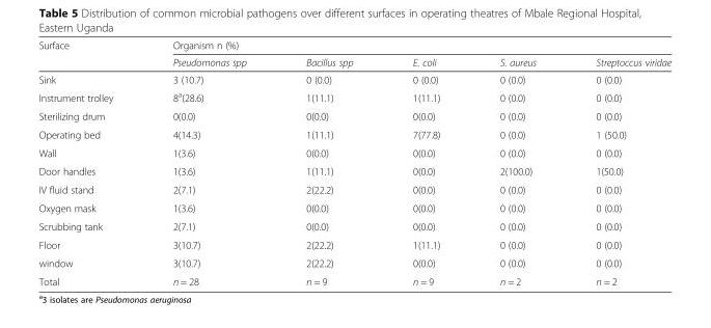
<table><thead><tr><td rowspan="2">Surface</td><td colspan="5">Organism n (%)</td></tr><tr><td>Pseudomonas spp</td><td>Bacillus spp</td><td>E. coli</td><td>S. aureus</td><td>Streptoccus viridae</td></tr></thead><tbody><tr><td>Sink</td><td>3 (10.7)</td><td>0 (0.0)</td><td>0 (0.0)</td><td>0 (0.0)</td><td>0 (0.0)</td></tr><tr><td>Instrument trolley</td><td>8<sup>a</sup>(28.6)</td><td>1(11.1)</td><td>1(11.1)</td><td>0 (0.0)</td><td>0 (0.0)</td></tr><tr><td>Sterilizing drum</td><td>0(0.0)</td><td>0(0.0)</td><td>0(0.0)</td><td>0 (0.0)</td><td>0 (0.0)</td></tr><tr><td>Operating bed</td><td>4(14.3)</td><td>1(11.1)</td><td>7(77.8)</td><td>0 (0.0)</td><td>1 (50.0)</td></tr><tr><td>Wall</td><td>1(3.6)</td><td>0(0.0)</td><td>0(0.0)</td><td>0 (0.0)</td><td>0 (0.0)</td></tr><tr><td>Door handles</td><td>1(3.6)</td><td>1(11.1)</td><td>0(0.0)</td><td>2(100.0)</td><td>1(50.0)</td></tr><tr><td>IV fluid stand</td><td>2(7.1)</td><td>2(22.2)</td><td>0(0.0)</td><td>0 (0.0)</td><td>0 (0.0)</td></tr><tr><td>Oxygen mask</td><td>1(3.6)</td><td>0(0.0)</td><td>0(0.0)</td><td>0 (0.0)</td><td>0 (0.0)</td></tr><tr><td>Scrubbing tank</td><td>2(7.1)</td><td>0(0.0)</td><td>0(0.0)</td><td>0 (0.0)</td><td>0 (0.0)</td></tr><tr><td>Floor</td><td>3(10.7)</td><td>2(22.2)</td><td>1(11.1)</td><td>0 (0.0)</td><td>0 (0.0)</td></tr><tr><td>window</td><td>3(10.7)</td><td>2(22.2)</td><td>0(0.0)</td><td>0 (0.0)</td><td>0 (0.0)</td></tr><tr><td>Total</td><td>n = 28</td><td>n = 9</td><td>n = 9</td><td>n = 2</td><td>n = 2</td></tr></tbody></table>